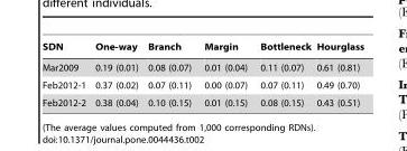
<table><thead><tr><td>SDN</td><td>One-way</td><td>Branch</td><td>Margin</td><td>Bottleneck</td><td>Hourglass</td></tr></thead><tbody><tr><td>Mar2009</td><td>0.19 (0.01)</td><td>0.08 (0.07)</td><td>0.01 (0.04)</td><td>0.11 (0.07)</td><td>0.61 (0.81)</td></tr><tr><td>Feb2012-1</td><td>0.37 (0.02)</td><td>0.07 (0.11)</td><td>0.00 (0.07)</td><td>0.07 (0.11)</td><td>0.49 (0.70)</td></tr><tr><td>Feb2012-2</td><td>0.38 (0.04)</td><td>0.10 (0.15)</td><td>0.01 (0.15)</td><td>0.08 (0.15)</td><td>0.43 (0.51)</td></tr></tbody></table>